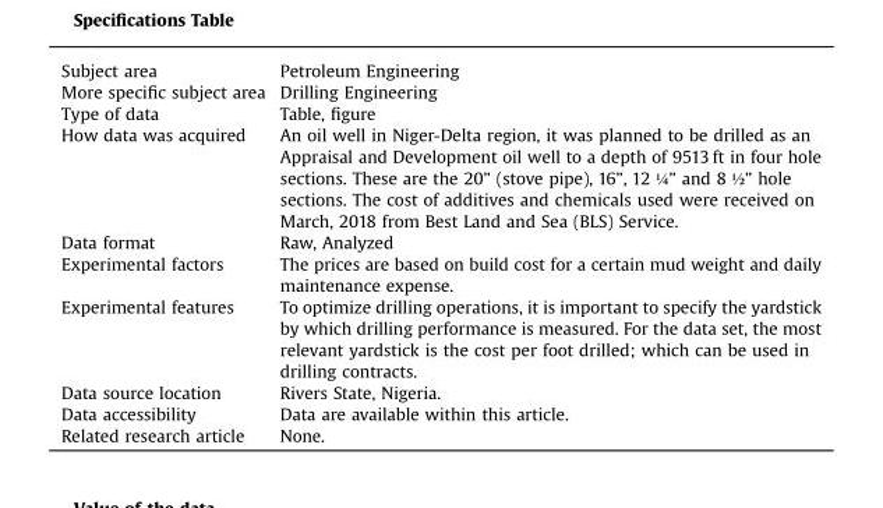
<table><tbody><tr><td>Subject area</td><td>Petroleum Engineering</td></tr><tr><td>More specific subject area</td><td>Drilling Engineering</td></tr><tr><td>Type of data</td><td>Table, figure</td></tr><tr><td>How data was acquired</td><td>An oil well in Niger-Delta region, it was planned to be drilled as an Appraisal and Development oil well to a depth of 9513 ft in four hole sections. These are the 20” (stove pipe), 16”, 12 ¼” and 8 ½” hole sections. The cost of additives and chemicals used were received on March, 2018 from Best Land and Sea (BLS) Service.</td></tr><tr><td>Data format</td><td>Raw, Analyzed</td></tr><tr><td>Experimental factors</td><td>The prices are based on build cost for a certain mud weight and daily maintenance expense.</td></tr><tr><td>Experimental features</td><td>To optimize drilling operations, it is important to specify the yardstick by which drilling performance is measured. For the data set, the most relevant yardstick is the cost per foot drilled; which can be used in drilling contracts.</td></tr><tr><td>Data source location</td><td>Rivers State, Nigeria.</td></tr><tr><td>Data accessibility</td><td>Data are available within this article.</td></tr><tr><td>Related research article</td><td>None.</td></tr></tbody></table>